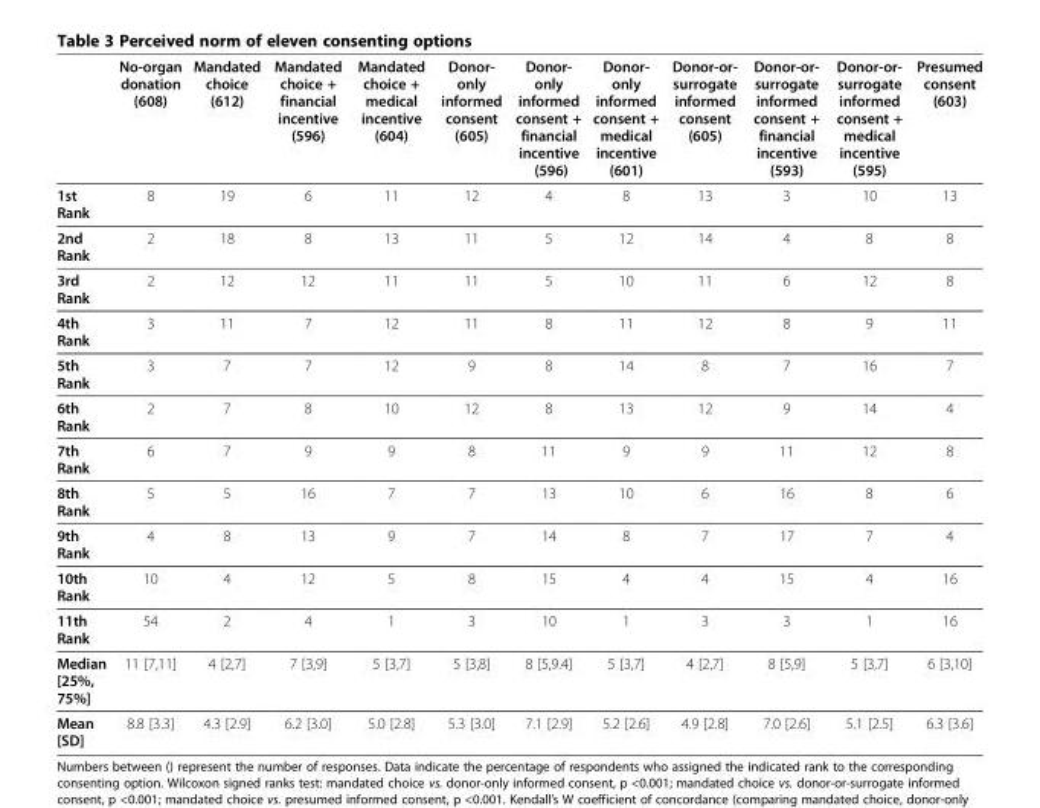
<table><thead><tr><td></td><td>No-organ donation (608)</td><td>Mandated choice (612)</td><td>Mandated choice + financial incentive (596)</td><td>Mandated choice + medical incentive (604)</td><td>Donor- only informed consent (605)</td><td>Donor- only informed consent + financial incentive (596)</td><td>Donor- only informed consent + medical incentive (601)</td><td>Donor-or- surrogate informed consent (605)</td><td>Donor-or- surrogate informed consent + financial incentive (593)</td><td>Donor-or- surrogate informed consent + medical incentive (595)</td><td>Presumed consent (603)</td></tr></thead><tbody><tr><td>1st Rank</td><td>8</td><td>19</td><td>6</td><td>11</td><td>12</td><td>4</td><td>8</td><td>13</td><td>3</td><td>10</td><td>13</td></tr><tr><td>2nd Rank</td><td>2</td><td>18</td><td>8</td><td>13</td><td>11</td><td>5</td><td>12</td><td>14</td><td>4</td><td>8</td><td>8</td></tr><tr><td>3rd Rank</td><td>2</td><td>12</td><td>12</td><td>11</td><td>11</td><td>5</td><td>10</td><td>11</td><td>6</td><td>12</td><td>8</td></tr><tr><td>4th Rank</td><td>3</td><td>11</td><td>7</td><td>12</td><td>11</td><td>8</td><td>11</td><td>12</td><td>8</td><td>9</td><td>11</td></tr><tr><td>5th Rank</td><td>3</td><td>7</td><td>7</td><td>12</td><td>9</td><td>8</td><td>14</td><td>8</td><td>7</td><td>16</td><td>7</td></tr><tr><td>6th Rank</td><td>2</td><td>7</td><td>8</td><td>10</td><td>12</td><td>8</td><td>13</td><td>12</td><td>9</td><td>14</td><td>4</td></tr><tr><td>7th Rank</td><td>6</td><td>7</td><td>9</td><td>9</td><td>8</td><td>11</td><td>9</td><td>9</td><td>11</td><td>12</td><td>8</td></tr><tr><td>8th Rank</td><td>5</td><td>5</td><td>16</td><td>7</td><td>7</td><td>13</td><td>10</td><td>6</td><td>16</td><td>8</td><td>6</td></tr><tr><td>9th Rank</td><td>4</td><td>8</td><td>13</td><td>9</td><td>7</td><td>14</td><td>8</td><td>7</td><td>17</td><td>7</td><td>4</td></tr><tr><td>10th Rank</td><td>10</td><td>4</td><td>12</td><td>5</td><td>8</td><td>15</td><td>4</td><td>4</td><td>15</td><td>4</td><td>16</td></tr><tr><td>11th Rank</td><td>54</td><td>2</td><td>4</td><td>1</td><td>3</td><td>10</td><td>1</td><td>3</td><td>3</td><td>1</td><td>16</td></tr><tr><td>Median [25%, 75%]</td><td>11 [7,11]</td><td>4 [2,7]</td><td>7 [3,9]</td><td>5 [3,7]</td><td>5 [3,8]</td><td>8 [5,9.4]</td><td>5 [3,7]</td><td>4 [2,7]</td><td>8 [5,9]</td><td>5 [3,7]</td><td>6 [3,10]</td></tr><tr><td>Mean [SD]</td><td>8.8 [3.3]</td><td>4.3 [2.9]</td><td>6.2 [3.0]</td><td>5.0 [2.8]</td><td>5.3 [3.0]</td><td>7.1 [2.9]</td><td>5.2 [2.6]</td><td>4.9 [2.8]</td><td>7.0 [2.6]</td><td>5.1 [2.5]</td><td>6.3 [3.6]</td></tr></tbody></table>